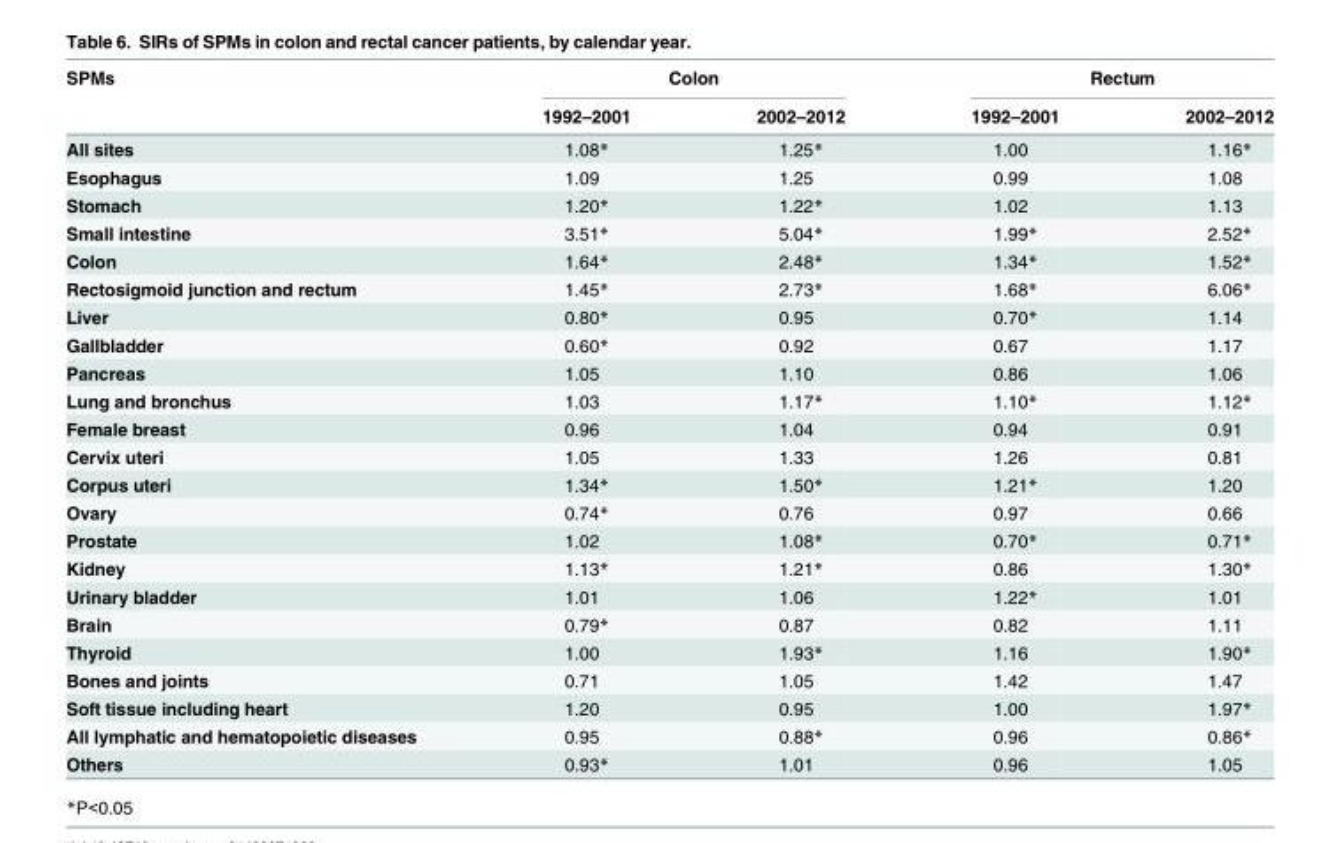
<table><thead><tr><td rowspan="2">SPMs</td><td colspan="2">Colon</td><td colspan="2">Rectum</td></tr><tr><td>1992–2001</td><td>2002–2012</td><td>1992–2001</td><td>2002–2012</td></tr></thead><tbody><tr><td>All sites</td><td>1.08*</td><td>1.25*</td><td>1.00</td><td>1.16*</td></tr><tr><td>Esophagus</td><td>1.09</td><td>1.25</td><td>0.99</td><td>1.08</td></tr><tr><td>Stomach</td><td>1.20*</td><td>1.22*</td><td>1.02</td><td>1.13</td></tr><tr><td>Small intestine</td><td>3.51*</td><td>5.04*</td><td>1.99*</td><td>2.52*</td></tr><tr><td>Colon</td><td>1.64*</td><td>2.48*</td><td>1.34*</td><td>1.52*</td></tr><tr><td>Rectosigmoid junction and rectum</td><td>1.45*</td><td>2.73*</td><td>1.68*</td><td>6.06*</td></tr><tr><td>Liver</td><td>0.80*</td><td>0.95</td><td>0.70*</td><td>1.14</td></tr><tr><td>Gallbladder</td><td>0.60*</td><td>0.92</td><td>0.67</td><td>1.17</td></tr><tr><td>Pancreas</td><td>1.05</td><td>1.10</td><td>0.86</td><td>1.06</td></tr><tr><td>Lung and bronchus</td><td>1.03</td><td>1.17*</td><td>1.10*</td><td>1.12*</td></tr><tr><td>Female breast</td><td>0.96</td><td>1.04</td><td>0.94</td><td>0.91</td></tr><tr><td>Cervix uteri</td><td>1.05</td><td>1.33</td><td>1.26</td><td>0.81</td></tr><tr><td>Corpus uteri</td><td>1.34*</td><td>1.50*</td><td>1.21*</td><td>1.20</td></tr><tr><td>Ovary</td><td>0.74*</td><td>0.76</td><td>0.97</td><td>0.66</td></tr><tr><td>Prostate</td><td>1.02</td><td>1.08*</td><td>0.70*</td><td>0.71*</td></tr><tr><td>Kidney</td><td>1.13*</td><td>1.21*</td><td>0.86</td><td>1.30*</td></tr><tr><td>Urinary bladder</td><td>1.01</td><td>1.06</td><td>1.22*</td><td>1.01</td></tr><tr><td>Brain</td><td>0.79*</td><td>0.87</td><td>0.82</td><td>1.11</td></tr><tr><td>Thyroid</td><td>1.00</td><td>1.93*</td><td>1.16</td><td>1.90*</td></tr><tr><td>Bones and joints</td><td>0.71</td><td>1.05</td><td>1.42</td><td>1.47</td></tr><tr><td>Soft tissue including heart</td><td>1.20</td><td>0.95</td><td>1.00</td><td>1.97*</td></tr><tr><td>All lymphatic and hematopoietic diseases</td><td>0.95</td><td>0.88*</td><td>0.96</td><td>0.86*</td></tr><tr><td>Others</td><td>0.93*</td><td>1.01</td><td>0.96</td><td>1.05</td></tr></tbody></table>